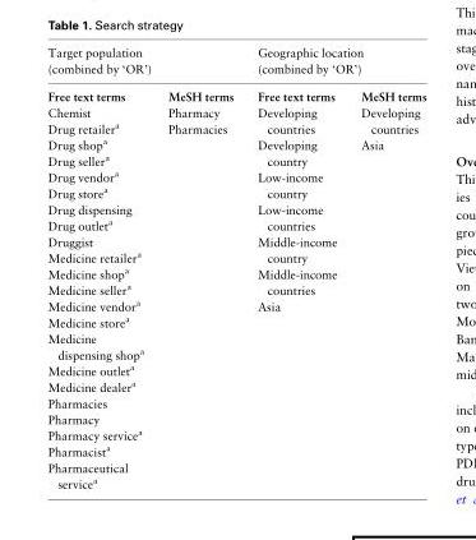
<table><thead><tr><td colspan="2">Target population (combined by ‘OR’)</td><td colspan="2">Geographic location (combined by ‘OR’)</td></tr><tr><td>Free text terms Chemist Drug retailer<sup>a</sup> Drug shop<sup>a</sup> Drug seller<sup>a</sup> Drug vendor<sup>a</sup> Drug store<sup>a</sup> Drug dispensing Drug outlet<sup>a</sup> Druggist Medicine retailer<sup>a</sup> Medicine shop<sup>a</sup> Medicine seller<sup>a</sup> Medicine vendor<sup>a</sup> Medicine store<sup>a</sup> Medicine dispensing shop<sup>a</sup> Medicine outlet<sup>a</sup> Medicine dealer<sup>a</sup> Pharmacies Pharmacy Pharmacy service<sup>a</sup> Pharmacist<sup>a</sup> Pharmaceutical service<sup>a</sup></td><td>MeSH terms Pharmacy Pharmacies</td><td>Free text terms Developing countries Developing country Low-income country Low-income countries Middle-income country Middle-income countries Asia</td><td>MeSH terms Developing countries Asia</td></tr></thead><tbody></tbody></table>